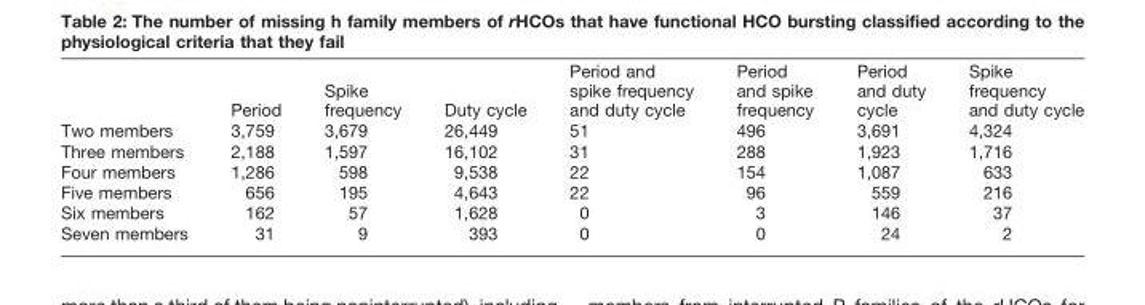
<table><thead><tr><td></td><td>Period</td><td>Spike frequency</td><td>Duty cycle</td><td>Period and spike frequency and duty cycle</td><td>Period and spike frequency</td><td>Period and duty cycle</td><td>Spike frequency and duty cycle</td></tr></thead><tbody><tr><td>Two members</td><td>3,759</td><td>3,679</td><td>26,449</td><td>51</td><td>496</td><td>3,691</td><td>4,324</td></tr><tr><td>Three members</td><td>2,188</td><td>1,597</td><td>16,102</td><td>31</td><td>288</td><td>1,923</td><td>1,716</td></tr><tr><td>Four members</td><td>1,286</td><td>598</td><td>9,538</td><td>22</td><td>154</td><td>1,087</td><td>633</td></tr><tr><td>Five members</td><td>656</td><td>195</td><td>4,643</td><td>22</td><td>96</td><td>559</td><td>216</td></tr><tr><td>Six members</td><td>162</td><td>57</td><td>1,628</td><td>0</td><td>3</td><td>146</td><td>37</td></tr><tr><td>Seven members</td><td>31</td><td>9</td><td>393</td><td>0</td><td>0</td><td>24</td><td>2</td></tr></tbody></table>